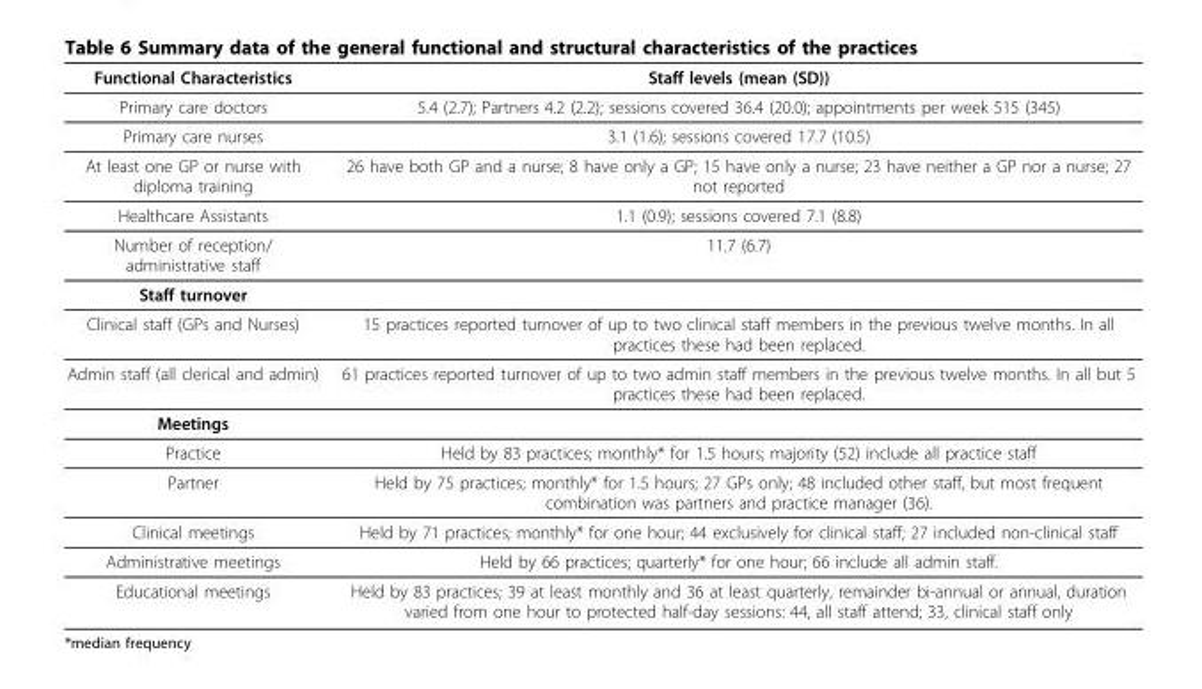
<table><thead><tr><td>Functional Characteristics</td><td>Staff levels (mean (SD))</td></tr></thead><tbody><tr><td>Primary care doctors</td><td>5.4 (2.7); Partners 4.2 (2.2); sessions covered 36.4 (20.0); appointments per week 515 (345)</td></tr><tr><td>Primary care nurses</td><td>3.1 (1.6); sessions covered 17.7 (10.5)</td></tr><tr><td>At least one GP or nurse with diploma training</td><td>26 have both GP and a nurse; 8 have only a GP; 15 have only a nurse; 23 have neither a GP nor a nurse; 27 not reported</td></tr><tr><td>Healthcare Assistants</td><td>1.1 (0.9); sessions covered 7.1 (8.8)</td></tr><tr><td>Number of reception/ administrative staff</td><td>11.7 (6.7)</td></tr><tr><td colspan="2">Staff turnover</td></tr><tr><td>Clinical staff (GPs and Nurses)</td><td>15 practices reported turnover of up to two clinical staff members in the previous twelve months. In all practices these had been replaced.</td></tr><tr><td>Admin staff (all clerical and admin)</td><td>61 practices reported turnover of up to two admin staff members in the previous twelve months. In all but 5 practices these had been replaced.</td></tr><tr><td colspan="2">Meetings</td></tr><tr><td>Practice</td><td>Held by 83 practices; monthly* for 1.5 hours; majority (52) include all practice staff</td></tr><tr><td>Partner</td><td>Held by 75 practices; monthly* for 1.5 hours; 27 GPs only; 48 included other staff, but most frequent combination was partners and practice manager (36).</td></tr><tr><td>Clinical meetings</td><td>Held by 71 practices; monthly* for one hour; 44 exclusively for clinical staff; 27 included non-clinical staff</td></tr><tr><td>Administrative meetings</td><td>Held by 66 practices; quarterly* for one hour; 66 include all admin staff.</td></tr><tr><td>Educational meetings</td><td>Held by 83 practices; 39 at least monthly and 36 at least quarterly, remainder bi-annual or annual, duration varied from one hour to protected half-day sessions: 44, all staff attend; 33, clinical staff only</td></tr></tbody></table>